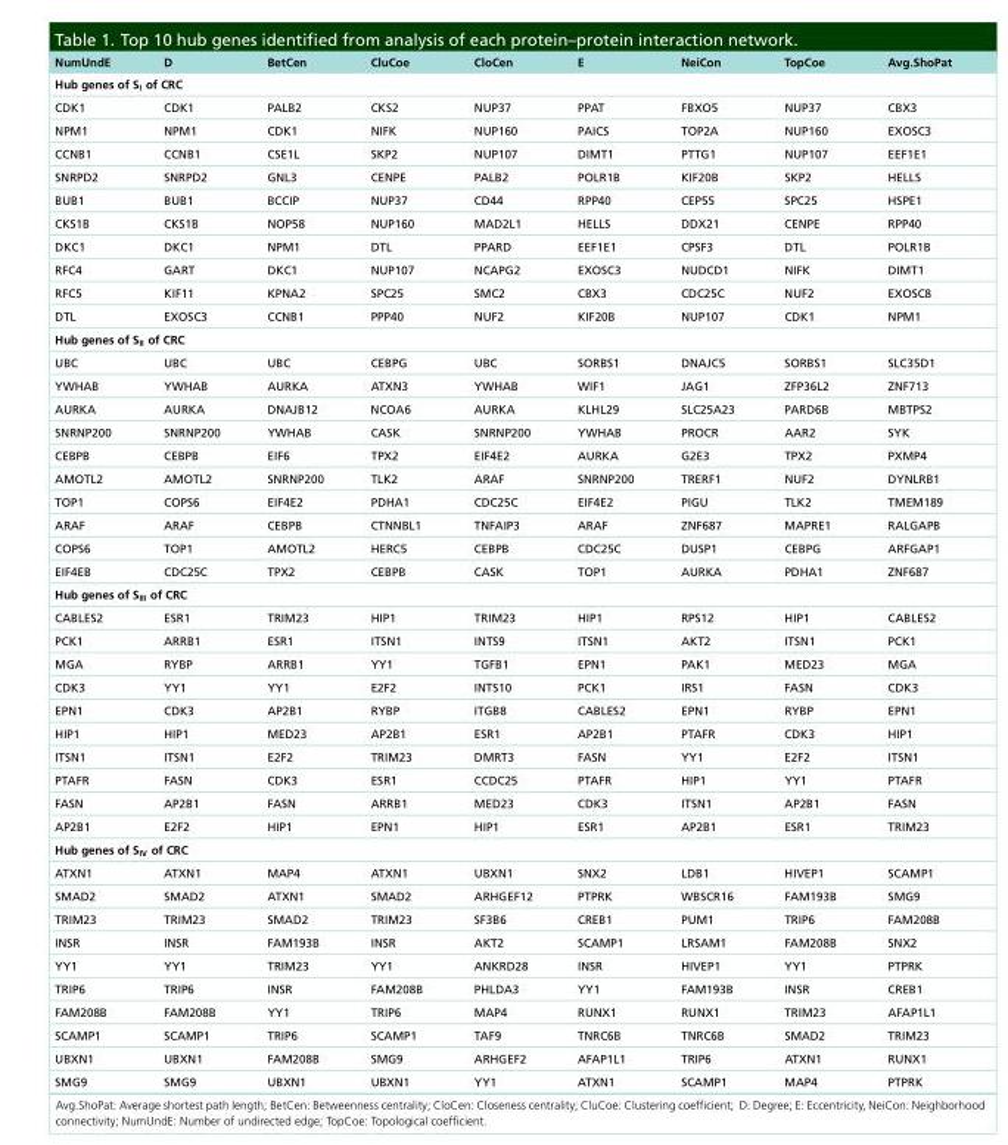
<table><thead><tr><td>NumUndE</td><td>D</td><td>BetCen</td><td>CluCoe</td><td>CloCen</td><td>E</td><td>NeiCon</td><td>TopCoe</td><td>Avg.ShoPat</td></tr></thead><tbody><tr><td colspan="9">Hub genes of S<sub>I</sub> of CRC</td></tr><tr><td>CDK1</td><td>CDK1</td><td>PALB2</td><td>CKS2</td><td>NUP37</td><td>PPAT</td><td>FBXO5</td><td>NUP37</td><td>CBX3</td></tr><tr><td>NPM1</td><td>NPM1</td><td>CDK1</td><td>NIFK</td><td>NUP160</td><td>PAICS</td><td>TOP2A</td><td>NUP160</td><td>EXOSC3</td></tr><tr><td>CCNB1</td><td>CCNB1</td><td>CSE1L</td><td>SKP2</td><td>NUP107</td><td>DIMT1</td><td>PTTG1</td><td>NUP107</td><td>EEF1E1</td></tr><tr><td>SNRPD2</td><td>SNRPD2</td><td>GNL3</td><td>CENPE</td><td>PALB2</td><td>POLR1B</td><td>KIF20B</td><td>SKP2</td><td>HELLS</td></tr><tr><td>BUB1</td><td>BUB1</td><td>BCCIP</td><td>NUP37</td><td>CD44</td><td>RPP40</td><td>CEP55</td><td>SPC25</td><td>HSPE1</td></tr><tr><td>CKS1B</td><td>CKS1B</td><td>NOP58</td><td>NUP160</td><td>MAD2L1</td><td>HELLS</td><td>DDX21</td><td>CENPE</td><td>RPP40</td></tr><tr><td>DKC1</td><td>DKC1</td><td>NPM1</td><td>DTL</td><td>PPARD</td><td>EEF1E1</td><td>CPSF3</td><td>DTL</td><td>POLR1B</td></tr><tr><td>RFC4</td><td>GART</td><td>DKC1</td><td>NUP107</td><td>NCAPG2</td><td>EXOSC3</td><td>NUDCD1</td><td>NIFK</td><td>DIMT1</td></tr><tr><td>RFC5</td><td>KIF11</td><td>KPNA2</td><td>SPC25</td><td>SMC2</td><td>CBX3</td><td>CDC25C</td><td>NUF2</td><td>EXOSC8</td></tr><tr><td>DTL</td><td>EXOSC3</td><td>CCNB1</td><td>PPP40</td><td>NUF2</td><td>KIF20B</td><td>NUP107</td><td>CDK1</td><td>NPM1</td></tr><tr><td colspan="9">Hub genes of S<sub>II</sub> of CRC</td></tr><tr><td>UBC</td><td>UBC</td><td>UBC</td><td>CEBPG</td><td>UBC</td><td>SORBS1</td><td>DNAJC5</td><td>SORBS1</td><td>SLC35D1</td></tr><tr><td>YWHAB</td><td>YWHAB</td><td>AURKA</td><td>ATXN3</td><td>YWHAB</td><td>WIF1</td><td>JAG1</td><td>ZFP36L2</td><td>ZNF713</td></tr><tr><td>AURKA</td><td>AURKA</td><td>DNAJB12</td><td>NCOA6</td><td>AURKA</td><td>KLHL29</td><td>SLC25A23</td><td>PARD6B</td><td>MBTPS2</td></tr><tr><td>SNRNP200</td><td>SNRNP200</td><td>YWHAB</td><td>CASK</td><td>SNRNP200</td><td>YWHAB</td><td>PROCR</td><td>AAR2</td><td>SYK</td></tr><tr><td>CEBPB</td><td>CEBPB</td><td>EIF6</td><td>TPX2</td><td>EIF4E2</td><td>AURKA</td><td>G2E3</td><td>TPX2</td><td>PXMP4</td></tr><tr><td>AMOTL2</td><td>AMOTL2</td><td>SNRNP200</td><td>TLK2</td><td>ARAF</td><td>SNRNP200</td><td>TRERF1</td><td>NUF2</td><td>DYNLRB1</td></tr><tr><td>TOP1</td><td>COPS6</td><td>EIF4E2</td><td>PDHA1</td><td>CDC25C</td><td>EIF4E2</td><td>PIGU</td><td>TLK2</td><td>TMEM189</td></tr><tr><td>ARAF</td><td>ARAF</td><td>CEBPB</td><td>CTNNBL1</td><td>TNFAIP3</td><td>ARAF</td><td>ZNF687</td><td>MAPRE1</td><td>RALGAPB</td></tr><tr><td>COPS6</td><td>TOP1</td><td>AMOTL2</td><td>HERC5</td><td>CEBPB</td><td>CDC25C</td><td>DUSP1</td><td>CEBPG</td><td>ARFGAP1</td></tr><tr><td>EIF4EB</td><td>CDC25C</td><td>TPX2</td><td>CEBPB</td><td>CASK</td><td>TOP1</td><td>AURKA</td><td>PDHA1</td><td>ZNF687</td></tr><tr><td colspan="9">Hub genes of S<sub>III</sub> of CRC</td></tr><tr><td>CABLES2</td><td>ESR1</td><td>TRIM23</td><td>HIP1</td><td>TRIM23</td><td>HIP1</td><td>RPS12</td><td>HIP1</td><td>CABLES2</td></tr><tr><td>PCK1</td><td>ARRB1</td><td>ESR1</td><td>ITSN1</td><td>INTS9</td><td>ITSN1</td><td>AKT2</td><td>ITSN1</td><td>PCK1</td></tr><tr><td>MGA</td><td>RYBP</td><td>ARRB1</td><td>YY1</td><td>TGFB1</td><td>EPN1</td><td>PAK1</td><td>MED23</td><td>MGA</td></tr><tr><td>CDK3</td><td>YY1</td><td>YY1</td><td>E2F2</td><td>INTS10</td><td>PCK1</td><td>IRS1</td><td>FASN</td><td>CDK3</td></tr><tr><td>EPN1</td><td>CDK3</td><td>AP2B1</td><td>RYBP</td><td>ITGB8</td><td>CABLES2</td><td>EPN1</td><td>RYBP</td><td>EPN1</td></tr><tr><td>HIP1</td><td>HIP1</td><td>MED23</td><td>AP2B1</td><td>ESR1</td><td>AP2B1</td><td>PTAFR</td><td>CDK3</td><td>HIP1</td></tr><tr><td>ITSN1</td><td>ITSN1</td><td>E2F2</td><td>TRIM23</td><td>DMRT3</td><td>FASN</td><td>YY1</td><td>E2F2</td><td>ITSN1</td></tr><tr><td>PTAFR</td><td>FASN</td><td>CDK3</td><td>ESR1</td><td>CCDC25</td><td>PTAFR</td><td>HIP1</td><td>YY1</td><td>PTAFR</td></tr><tr><td>FASN</td><td>AP2B1</td><td>FASN</td><td>ARRB1</td><td>MED23</td><td>CDK3</td><td>ITSN1</td><td>AP2B1</td><td>FASN</td></tr><tr><td>AP2B1</td><td>E2F2</td><td>HIP1</td><td>EPN1</td><td>HIP1</td><td>ESR1</td><td>AP2B1</td><td>ESR1</td><td>TRIM23</td></tr><tr><td colspan="9">Hub genes of S<sub>IV</sub> of CRC</td></tr><tr><td>ATXN1</td><td>ATXN1</td><td>MAP4</td><td>ATXN1</td><td>UBXN1</td><td>SNX2</td><td>LDB1</td><td>HIVEP1</td><td>SCAMP1</td></tr><tr><td>SMAD2</td><td>SMAD2</td><td>ATXN1</td><td>SMAD2</td><td>ARHGEF12</td><td>PTPRK</td><td>WBSCR16</td><td>FAM193B</td><td>SMG9</td></tr><tr><td>TRIM23</td><td>TRIM23</td><td>SMAD2</td><td>TRIM23</td><td>SF3B6</td><td>CREB1</td><td>PUM1</td><td>TRIP6</td><td>FAM208B</td></tr><tr><td>INSR</td><td>INSR</td><td>FAM193B</td><td>INSR</td><td>AKT2</td><td>SCAMP1</td><td>LRSAM1</td><td>FAM208B</td><td>SNX2</td></tr><tr><td>YY1</td><td>YY1</td><td>TRIM23</td><td>YY1</td><td>ANKRD28</td><td>INSR</td><td>HIVEP1</td><td>YY1</td><td>PTPRK</td></tr><tr><td>TRIP6</td><td>TRIP6</td><td>INSR</td><td>FAM208B</td><td>PHLDA3</td><td>YY1</td><td>FAM193B</td><td>INSR</td><td>CREB1</td></tr><tr><td>FAM208B</td><td>FAM208B</td><td>YY1</td><td>TRIP6</td><td>MAP4</td><td>RUNX1</td><td>RUNX1</td><td>TRIM23</td><td>AFAP1L1</td></tr><tr><td>SCAMP1</td><td>SCAMP1</td><td>TRIP6</td><td>SCAMP1</td><td>TAF9</td><td>TNRC6B</td><td>TNRC6B</td><td>SMAD2</td><td>TRIM23</td></tr><tr><td>UBXN1</td><td>UBXN1</td><td>FAM208B</td><td>SMG9</td><td>ARHGEF2</td><td>AFAP1L1</td><td>TRIP6</td><td>ATXN1</td><td>RUNX1</td></tr><tr><td>SMG9</td><td>SMG9</td><td>UBXN1</td><td>UBXN1</td><td>YY1</td><td>ATXN1</td><td>SCAMP1</td><td>MAP4</td><td>PTPRK</td></tr></tbody></table>